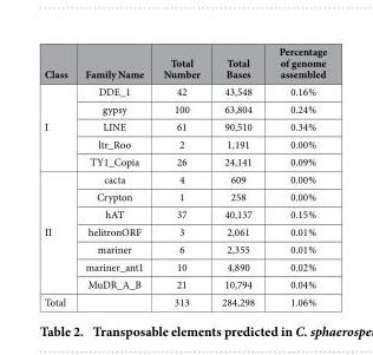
<table><thead><tr><td>Class</td><td>Family Name</td><td>Total Number</td><td>Total Bases</td><td>Percentage of genome assembled</td></tr></thead><tbody><tr><td rowspan="5">I</td><td>DDE_1</td><td>42</td><td>43,548</td><td>0.16%</td></tr><tr><td>gypsy</td><td>100</td><td>63,804</td><td>0.24%</td></tr><tr><td>LINE</td><td>61</td><td>90,510</td><td>0.34%</td></tr><tr><td>ltr_Roo</td><td>2</td><td>1,191</td><td>0.00%</td></tr><tr><td>TY1_Copia</td><td>26</td><td>24,141</td><td>0.09%</td></tr><tr><td rowspan="7">II</td><td>cacta</td><td>4</td><td>609</td><td>0.00%</td></tr><tr><td>Crypton</td><td>1</td><td>258</td><td>0.00%</td></tr><tr><td>hAT</td><td>37</td><td>40,137</td><td>0.15%</td></tr><tr><td>helitronORF</td><td>3</td><td>2,061</td><td>0.01%</td></tr><tr><td>mariner</td><td>6</td><td>2,355</td><td>0.01%</td></tr><tr><td>mariner_ant1</td><td>10</td><td>4,890</td><td>0.02%</td></tr><tr><td>MuDR_A_B</td><td>21</td><td>10,794</td><td>0.04%</td></tr><tr><td>Total</td><td></td><td>313</td><td>284,298</td><td>1.06%</td></tr></tbody></table>